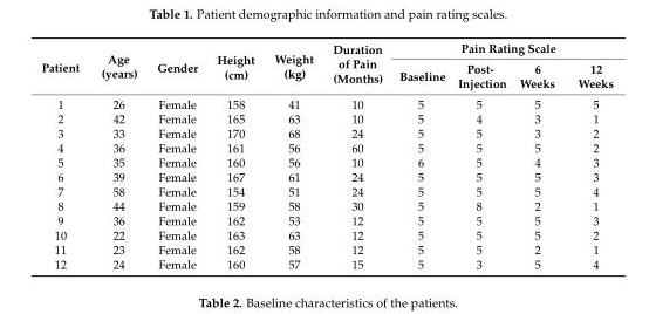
<table><thead><tr><td rowspan="2">Patient</td><td rowspan="2">Age (years)</td><td rowspan="2">Gender</td><td rowspan="2">Height (cm)</td><td rowspan="2">Weight (kg)</td><td rowspan="2">Duration of Pain (Months)</td><td colspan="4">Pain Rating Scale</td></tr><tr><td>Baseline</td><td>Post- Injection</td><td>6 Weeks</td><td>12 Weeks</td></tr></thead><tbody><tr><td>1</td><td>26</td><td>Female</td><td>158</td><td>41</td><td>10</td><td>5</td><td>5</td><td>5</td><td>5</td></tr><tr><td>2</td><td>42</td><td>Female</td><td>165</td><td>63</td><td>10</td><td>5</td><td>4</td><td>3</td><td>1</td></tr><tr><td>3</td><td>33</td><td>Female</td><td>170</td><td>68</td><td>24</td><td>5</td><td>5</td><td>3</td><td>2</td></tr><tr><td>4</td><td>36</td><td>Female</td><td>161</td><td>56</td><td>60</td><td>5</td><td>5</td><td>5</td><td>2</td></tr><tr><td>5</td><td>35</td><td>Female</td><td>160</td><td>56</td><td>10</td><td>6</td><td>5</td><td>4</td><td>3</td></tr><tr><td>6</td><td>39</td><td>Female</td><td>167</td><td>61</td><td>24</td><td>5</td><td>5</td><td>5</td><td>3</td></tr><tr><td>7</td><td>58</td><td>Female</td><td>154</td><td>51</td><td>24</td><td>5</td><td>5</td><td>5</td><td>4</td></tr><tr><td>8</td><td>44</td><td>Female</td><td>159</td><td>58</td><td>30</td><td>5</td><td>8</td><td>2</td><td>1</td></tr><tr><td>9</td><td>36</td><td>Female</td><td>162</td><td>53</td><td>12</td><td>5</td><td>5</td><td>5</td><td>3</td></tr><tr><td>10</td><td>22</td><td>Female</td><td>163</td><td>63</td><td>12</td><td>5</td><td>5</td><td>5</td><td>2</td></tr><tr><td>11</td><td>23</td><td>Female</td><td>162</td><td>58</td><td>12</td><td>5</td><td>5</td><td>2</td><td>1</td></tr><tr><td>12</td><td>24</td><td>Female</td><td>160</td><td>57</td><td>15</td><td>5</td><td>3</td><td>5</td><td>4</td></tr></tbody></table>